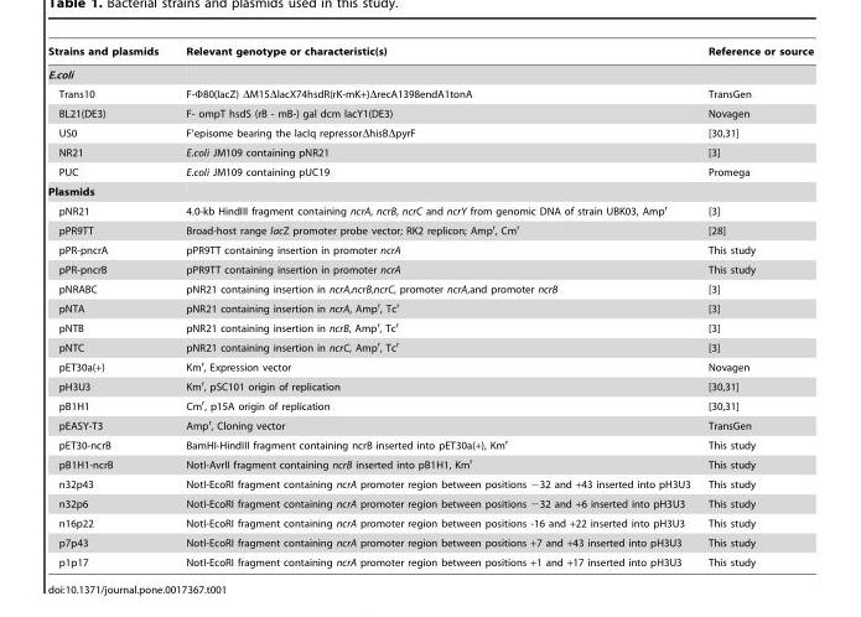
<table><thead><tr><td>Strains and plasmids</td><td>Relevant genotype or characteristic(s)</td><td>Reference or source</td></tr></thead><tbody><tr><td colspan="3">E.coli</td></tr><tr><td>Trans10</td><td>F-Ф80(lacZ) ΔM15ΔlacX74hsdR(rK-mK+)ΔrecA1398endA1tonA</td><td>TransGen</td></tr><tr><td>BL21(DE3)</td><td>F- ompT hsdS (rB - mB-) gal dcm lacY1(DE3)</td><td>Novagen</td></tr><tr><td>US0</td><td>F’episome bearing the lacIq repressorΔhisBΔpyrF</td><td>[30,31]</td></tr><tr><td>NR21</td><td>E.coli JM109 containing pNR21</td><td>[3]</td></tr><tr><td>PUC</td><td>E.coli JM109 containing pUC19</td><td>Promega</td></tr><tr><td colspan="3">Plasmids</td></tr><tr><td>pNR21</td><td>4.0-kb HindIII fragment containing ncrA, ncrB, ncrC and ncrY from genomic DNA of strain UBK03, Amp<sup>r</sup></td><td>[3]</td></tr><tr><td>pPR9TT</td><td>Broad-host range lacZ promoter probe vector; RK2 replicon; Amp<sup>r</sup>, Cm<sup>r</sup></td><td>[28]</td></tr><tr><td>pPR-pncrA</td><td>pPR9TT containing insertion in promoter ncrA</td><td>This study</td></tr><tr><td>pPR-pncrB</td><td>pPR9TT containing insertion in promoter ncrA</td><td>This study</td></tr><tr><td>pNRABC</td><td>pNR21 containing insertion in ncrA,ncrB,ncrC, promoter ncrA,and promoter ncrB</td><td>[3]</td></tr><tr><td>pNTA</td><td>pNR21 containing insertion in ncrA, Amp<sup>r</sup>, Tc<sup>r</sup></td><td>[3]</td></tr><tr><td>pNTB</td><td>pNR21 containing insertion in ncrB, Amp<sup>r</sup>, Tc<sup>r</sup></td><td>[3]</td></tr><tr><td>pNTC</td><td>pNR21 containing insertion in ncrC, Amp<sup>r</sup>, Tc<sup>r</sup></td><td>[3]</td></tr><tr><td>pET30a(+)</td><td>Km<sup>r</sup>, Expression vector</td><td>Novagen</td></tr><tr><td>pH3U3</td><td>Km<sup>r</sup>, pSC101 origin of replication</td><td>[30,31]</td></tr><tr><td>pB1H1</td><td>Cm<sup>r</sup>, p15A origin of replication</td><td>[30,31]</td></tr><tr><td>pEASY-T3</td><td>Amp<sup>r</sup>, Cloning vector</td><td>TransGen</td></tr><tr><td>pET30-ncrB</td><td>BamHI-HindIII fragment containing ncrB inserted into pET30a(+), Km<sup>r</sup></td><td>This study</td></tr><tr><td>pB1H1-ncrB</td><td>NotI-AvrII fragment containing ncrB inserted into pB1H1, Km<sup>r</sup></td><td>This study</td></tr><tr><td>n32p43</td><td>NotI-EcoRI fragment containing ncrA promoter region between positions −32 and +43 inserted into pH3U3</td><td>This study</td></tr><tr><td>n32p6</td><td>NotI-EcoRI fragment containing ncrA promoter region between positions −32 and +6 inserted into pH3U3</td><td>This study</td></tr><tr><td>n16p22</td><td>NotI-EcoRI fragment containing ncrA promoter region between positions -16 and +22 inserted into pH3U3</td><td>This study</td></tr><tr><td>p7p43</td><td>NotI-EcoRI fragment containing ncrA promoter region between positions +7 and +43 inserted into pH3U3</td><td>This study</td></tr><tr><td>p1p17</td><td>NotI-EcoRI fragment containing ncrA promoter region between positions +1 and +17 inserted into pH3U3</td><td>This study</td></tr></tbody></table>